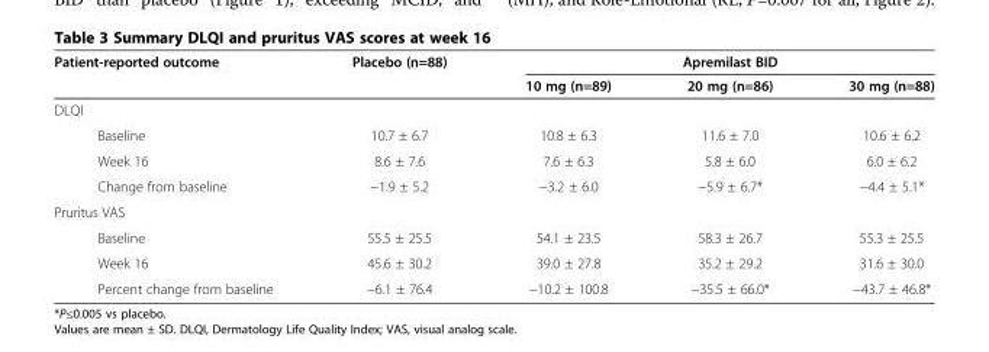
<table><thead><tr><td rowspan="2">Patient-reported outcome</td><td rowspan="2">Placebo (n=88)</td><td colspan="3">Apremilast BID</td></tr><tr><td>10 mg (n=89)</td><td>20 mg (n=86)</td><td>30 mg (n=88)</td></tr></thead><tbody><tr><td colspan="5">DLQI</td></tr><tr><td>Baseline</td><td>10.7 ± 6.7</td><td>10.8 ± 6.3</td><td>11.6 ± 7.0</td><td>10.6 ± 6.2</td></tr><tr><td>Week 16</td><td>8.6 ± 7.6</td><td>7.6 ± 6.3</td><td>5.8 ± 6.0</td><td>6.0 ± 6.2</td></tr><tr><td>Change from baseline</td><td>−1.9 ± 5.2</td><td>−3.2 ± 6.0</td><td>−5.9 ± 6.7*</td><td>−4.4 ± 5.1*</td></tr><tr><td colspan="5">Pruritus VAS</td></tr><tr><td>Baseline</td><td>55.5 ± 25.5</td><td>54.1 ± 23.5</td><td>58.3 ± 26.7</td><td>55.3 ± 25.5</td></tr><tr><td>Week 16</td><td>45.6 ± 30.2</td><td>39.0 ± 27.8</td><td>35.2 ± 29.2</td><td>31.6 ± 30.0</td></tr><tr><td>Percent change from baseline</td><td>−6.1 ± 76.4</td><td>−10.2 ± 100.8</td><td>−35.5 ± 66.0*</td><td>−43.7 ± 46.8*</td></tr></tbody></table>